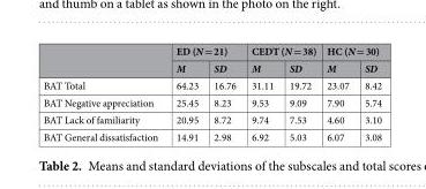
<table><thead><tr><td rowspan="2"></td><td colspan="2">ED (N = 21)</td><td colspan="2">CEDT (N = 38)</td><td colspan="2">HC (N = 30)</td></tr><tr><td>M</td><td>SD</td><td>M</td><td>SD</td><td>M</td><td>SD</td></tr></thead><tbody><tr><td>BAT Total</td><td>64.23</td><td>16.76</td><td>31.11</td><td>19.72</td><td>23.07</td><td>8.42</td></tr><tr><td>BAT Negative appreciation</td><td>25.45</td><td>8.23</td><td>9.53</td><td>9.09</td><td>7.90</td><td>5.74</td></tr><tr><td>BAT Lack of familiarity</td><td>20.95</td><td>8.72</td><td>9.74</td><td>7.53</td><td>4.60</td><td>3.10</td></tr><tr><td>BAT General dissatisfaction</td><td>14.91</td><td>2.98</td><td>6.92</td><td>5.03</td><td>6.07</td><td>3.08</td></tr></tbody></table>